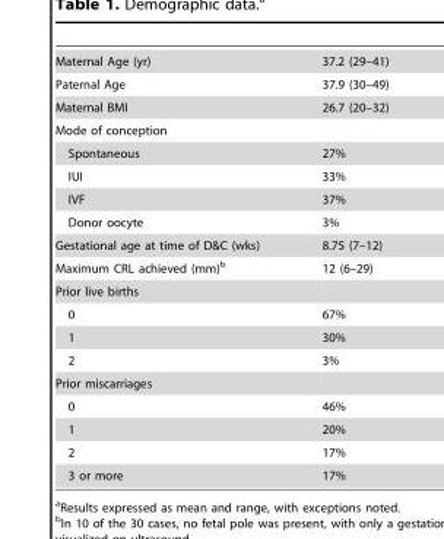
<table><tbody><tr><td>Maternal Age (yr)</td><td>37.2 (29–41)</td></tr><tr><td>Paternal Age</td><td>37.9 (30–49)</td></tr><tr><td>Maternal BMI</td><td>26.7 (20–32)</td></tr><tr><td colspan="2">Mode of conception</td></tr><tr><td>Spontaneous</td><td>27%</td></tr><tr><td>IUI</td><td>33%</td></tr><tr><td>IVF</td><td>37%</td></tr><tr><td>Donor oocyte</td><td>3%</td></tr><tr><td>Gestational age at time of D&amp;C (wks)</td><td>8.75 (7–12)</td></tr><tr><td>Maximum CRL achieved (mm)<sup>b</sup></td><td>12 (6–29)</td></tr><tr><td colspan="2">Prior live births</td></tr><tr><td>0</td><td>67%</td></tr><tr><td>1</td><td>30%</td></tr><tr><td>2</td><td>3%</td></tr><tr><td colspan="2">Prior miscarriages</td></tr><tr><td>0</td><td>46%</td></tr><tr><td>1</td><td>20%</td></tr><tr><td>2</td><td>17%</td></tr><tr><td>3 or more</td><td>17%</td></tr></tbody></table>